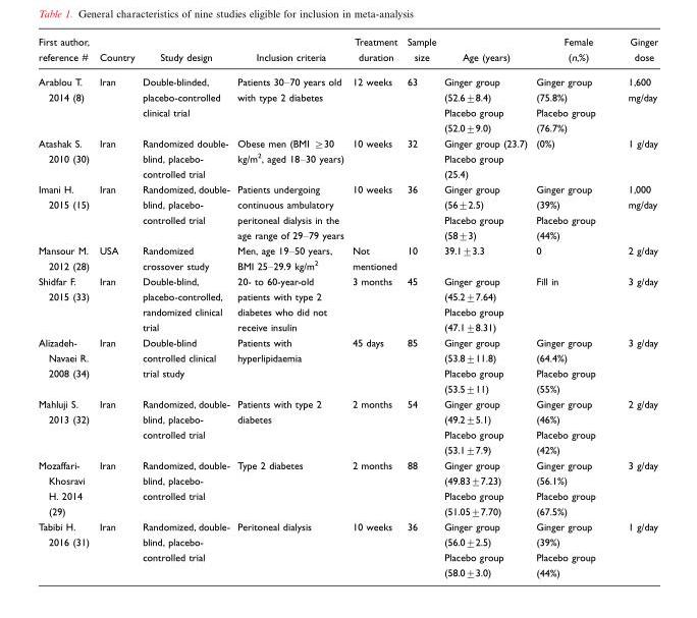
<table><thead><tr><td>First author, reference #</td><td>Country</td><td>Study design</td><td>Inclusion criteria</td><td>Treatment duration</td><td>Sample size</td><td>Age (years)</td><td>Female (n,%)</td><td>Ginger dose</td></tr></thead><tbody><tr><td>Arablou T. 2014 (8)</td><td>Iran</td><td>Double-blinded, placebo-controlled clinical trial</td><td>Patients 30–70 years old with type 2 diabetes</td><td>12 weeks</td><td>63</td><td>Ginger group (52.6±8.4) Placebo group (52.0±9.0)</td><td>Ginger group (75.8%) Placebo group (76.7%)</td><td>1,600 mg/day</td></tr><tr><td>Atashak S. 2010 (30)</td><td>Iran</td><td>Randomized double- blind, placebo- controlled trial</td><td>Obese men (BMI ≥30 kg/m<sup>2</sup>, aged 18–30 years)</td><td>10 weeks</td><td>32</td><td>Ginger group (23.7) Placebo group (25.4)</td><td>(0%)</td><td>1 g/day</td></tr><tr><td>Imani H. 2015 (15)</td><td>Iran</td><td>Randomized, double- blind, placebo- controlled trial</td><td>Patients undergoing continuous ambulatory peritoneal dialysis in the age range of 29–79 years</td><td>10 weeks</td><td>36</td><td>Ginger group (56±2.5) Placebo group (58±3)</td><td>Ginger group (39%) Placebo group (44%)</td><td>1,000 mg/day</td></tr><tr><td>Mansour M. 2012 (28)</td><td>USA</td><td>Randomized crossover study</td><td>Men, age 19–50 years, BMI 25–29.9 kg/m<sup>2</sup></td><td>Not mentioned</td><td>10</td><td>39.1±3.3</td><td>0</td><td>2 g/day</td></tr><tr><td>Shidfar F. 2015 (33)</td><td>Iran</td><td>Double-blind, placebo-controlled, randomized clinical trial</td><td>20- to 60-year-old patients with type 2 diabetes who did not receive insulin</td><td>3 months</td><td>45</td><td>Ginger group (45.2±7.64) Placebo group (47.1±8.31)</td><td>Fill in</td><td>3 g/day</td></tr><tr><td>Alizadeh- Navaei R. 2008 (34)</td><td>Iran</td><td>Double-blind controlled clinical trial study</td><td>Patients with hyperlipidaemia</td><td>45 days</td><td>85</td><td>Ginger group (53.8±11.8) Placebo group (53.5±11)</td><td>Ginger group (64.4%) Placebo group (55%)</td><td>3 g/day</td></tr><tr><td>Mahluji S. 2013 (32)</td><td>Iran</td><td>Randomized, double- blind, placebo- controlled trial</td><td>Patients with type 2 diabetes</td><td>2 months</td><td>54</td><td>Ginger group (49.2±5.1) Placebo group (53.1±7.9)</td><td>Ginger group (46%) Placebo group (42%)</td><td>2 g/day</td></tr><tr><td>Mozaffari- Khosravi H. 2014 (29)</td><td>Iran</td><td>Randomized, double- blind, placebo- controlled trial</td><td>Type 2 diabetes</td><td>2 months</td><td>88</td><td>Ginger group (49.83±7.23) Placebo group (51.05±7.70)</td><td>Ginger group (56.1%) Placebo group (67.5%)</td><td>3 g/day</td></tr><tr><td>Tabibi H. 2016 (31)</td><td>Iran</td><td>Randomized, double- blind, placebo- controlled trial</td><td>Peritoneal dialysis</td><td>10 weeks</td><td>36</td><td>Ginger group (56.0±2.5) Placebo group (58.0±3.0)</td><td>Ginger group (39%) Placebo group (44%)</td><td>1 g/day</td></tr></tbody></table>